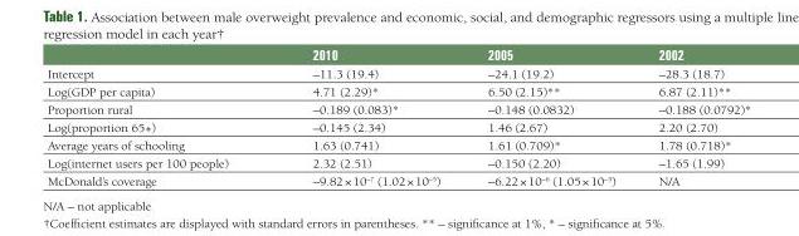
<table><thead><tr><td></td><td>2010</td><td>2005</td><td>2002</td></tr></thead><tbody><tr><td>Intercept</td><td>–11.3 (19.4)</td><td>–24.1 (19.2)</td><td>–28.3 (18.7)</td></tr><tr><td>Log(GDP per capita)</td><td>4.71 (2.29)*</td><td>6.50 (2.15)**</td><td>6.87 (2.11)**</td></tr><tr><td>Proportion rural</td><td>–0.189 (0.083)*</td><td>–0.148 (0.0832)</td><td>–0.188 (0.0792)*</td></tr><tr><td>Log(proportion 65+)</td><td>–0.145 (2.34)</td><td>1.46 (2.67)</td><td>2.20 (2.70)</td></tr><tr><td>Average years of schooling</td><td>1.63 (0.741)</td><td>1.61 (0.709)*</td><td>1.78 (0.718)*</td></tr><tr><td>Log(internet users per 100 people)</td><td>2.32 (2.51)</td><td>–0.150 (2.20)</td><td>–1.65 (1.99)</td></tr><tr><td>McDonald’s coverage</td><td>–9.82 × 10<sup>–7</sup> (1.02 × 10<sup>–5</sup>)</td><td>–6.22 × 10<sup>–6</sup> (1.05 × 10<sup>–5</sup>)</td><td>N/A</td></tr></tbody></table>